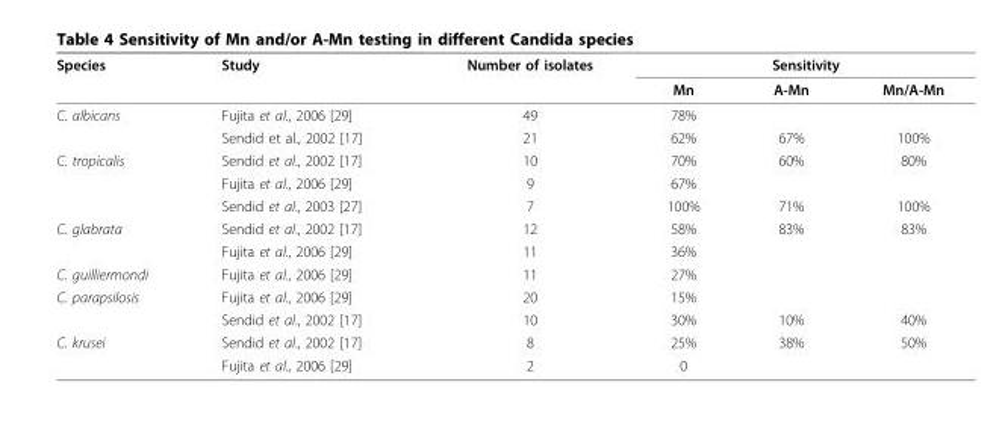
<table><thead><tr><td rowspan="2">Species</td><td rowspan="2">Study</td><td rowspan="2">Number of isolates</td><td colspan="3">Sensitivity</td></tr><tr><td>Mn</td><td>A-Mn</td><td>Mn/A-Mn</td></tr></thead><tbody><tr><td rowspan="2">C. albicans</td><td>Fujita et al., 2006 [29]</td><td>49</td><td>78%</td><td></td><td></td></tr><tr><td>Sendid et al., 2002 [17]</td><td>21</td><td>62%</td><td>67%</td><td>100%</td></tr><tr><td rowspan="3">C. tropicalis</td><td>Sendid et al., 2002 [17]</td><td>10</td><td>70%</td><td>60%</td><td>80%</td></tr><tr><td>Fujita et al., 2006 [29]</td><td>9</td><td>67%</td><td></td><td></td></tr><tr><td>Sendid et al., 2003 [27]</td><td>7</td><td>100%</td><td>71%</td><td>100%</td></tr><tr><td rowspan="2">C. glabrata</td><td>Sendid et al., 2002 [17]</td><td>12</td><td>58%</td><td>83%</td><td>83%</td></tr><tr><td>Fujita et al., 2006 [29]</td><td>11</td><td>36%</td><td></td><td></td></tr><tr><td>C. guilliermondi</td><td>Fujita et al., 2006 [29]</td><td>11</td><td>27%</td><td></td><td></td></tr><tr><td rowspan="2">C. parapsilosis</td><td>Fujita et al., 2006 [29]</td><td>20</td><td>15%</td><td></td><td></td></tr><tr><td>Sendid et al., 2002 [17]</td><td>10</td><td>30%</td><td>10%</td><td>40%</td></tr><tr><td rowspan="2">C. krusei</td><td>Sendid et al., 2002 [17]</td><td>8</td><td>25%</td><td>38%</td><td>50%</td></tr><tr><td>Fujita et al., 2006 [29]</td><td>2</td><td>0</td><td></td><td></td></tr></tbody></table>